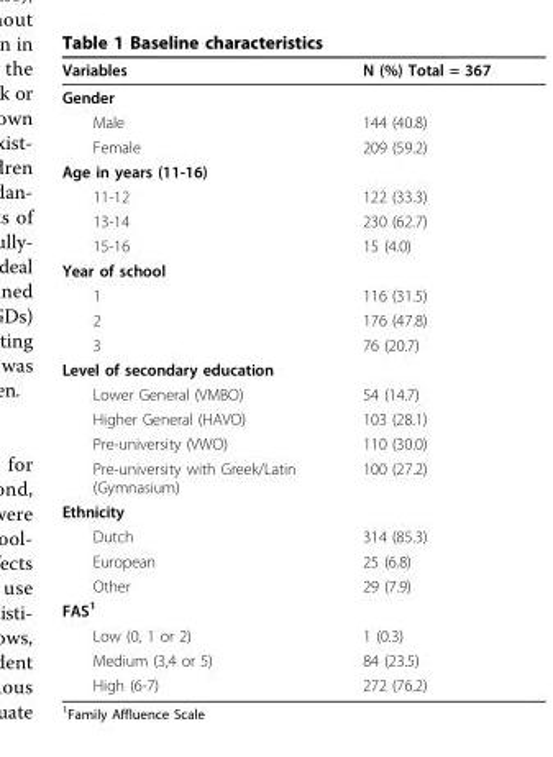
<table><thead><tr><td>Variables</td><td>N (%) Total = 367</td></tr></thead><tbody><tr><td colspan="2">Gender</td></tr><tr><td>Male</td><td>144 (40.8)</td></tr><tr><td>Female</td><td>209 (59.2)</td></tr><tr><td colspan="2">Age in years (11-16)</td></tr><tr><td>11-12</td><td>122 (33.3)</td></tr><tr><td>13-14</td><td>230 (62.7)</td></tr><tr><td>15-16</td><td>15 (4.0)</td></tr><tr><td colspan="2">Year of school</td></tr><tr><td>1</td><td>116 (31.5)</td></tr><tr><td>2</td><td>176 (47.8)</td></tr><tr><td>3</td><td>76 (20.7)</td></tr><tr><td colspan="2">Level of secondary education</td></tr><tr><td>Lower General (VMBO)</td><td>54 (14.7)</td></tr><tr><td>Higher General (HAVO)</td><td>103 (28.1)</td></tr><tr><td>Pre-university (VWO)</td><td>110 (30.0)</td></tr><tr><td>Pre-university with Greek/Latin (Gymnasium)</td><td>100 (27.2)</td></tr><tr><td colspan="2">Ethnicity</td></tr><tr><td>Dutch</td><td>314 (85.3)</td></tr><tr><td>European</td><td>25 (6.8)</td></tr><tr><td>Other</td><td>29 (7.9)</td></tr><tr><td colspan="2">FAS<sup>1</sup></td></tr><tr><td>Low (0, 1 or 2)</td><td>1 (0.3)</td></tr><tr><td>Medium (3,4 or 5)</td><td>84 (23.5)</td></tr><tr><td>High (6-7)</td><td>272 (76.2)</td></tr></tbody></table>